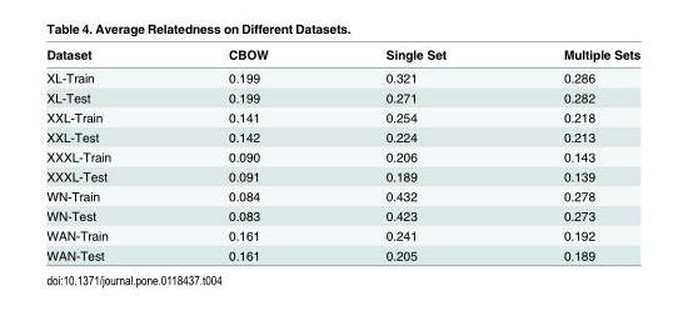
<table><thead><tr><td>Dataset</td><td>CBOW</td><td>Single Set</td><td>Multiple Sets</td></tr></thead><tbody><tr><td>XL-Train</td><td>0.199</td><td>0.321</td><td>0.286</td></tr><tr><td>XL-Test</td><td>0.199</td><td>0.271</td><td>0.282</td></tr><tr><td>XXL-Train</td><td>0.141</td><td>0.254</td><td>0.218</td></tr><tr><td>XXL-Test</td><td>0.142</td><td>0.224</td><td>0.213</td></tr><tr><td>XXXL-Train</td><td>0.090</td><td>0.206</td><td>0.143</td></tr><tr><td>XXXL-Test</td><td>0.091</td><td>0.189</td><td>0.139</td></tr><tr><td>WN-Train</td><td>0.084</td><td>0.432</td><td>0.278</td></tr><tr><td>WN-Test</td><td>0.083</td><td>0.423</td><td>0.273</td></tr><tr><td>WAN-Train</td><td>0.161</td><td>0.241</td><td>0.192</td></tr><tr><td>WAN-Test</td><td>0.161</td><td>0.205</td><td>0.189</td></tr></tbody></table>